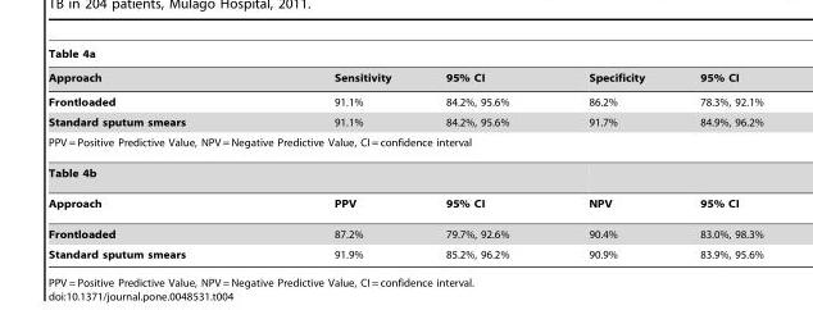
<table><thead><tr><td colspan="5">Table 4a</td></tr><tr><td>Approach</td><td>Sensitivity</td><td>95% CI</td><td>Specificity</td><td>95% CI</td></tr></thead><tbody><tr><td>Frontloaded</td><td>91.1%</td><td>84.2%, 95.6%</td><td>86.2%</td><td>78.3%, 92.1%</td></tr><tr><td>Standard sputum smears</td><td>91.1%</td><td>84.2%, 95.6%</td><td>91.7%</td><td>84.9%, 96.2%</td></tr><tr><td colspan="5">PPV = Positive Predictive Value, NPV = Negative Predictive Value, CI = confidence interval</td></tr><tr><td colspan="5">Table 4b</td></tr><tr><td>Approach</td><td>PPV</td><td>95% CI</td><td>NPV</td><td>95% CI</td></tr><tr><td>Frontloaded</td><td>87.2%</td><td>79.7%, 92.6%</td><td>90.4%</td><td>83.0%, 98.3%</td></tr><tr><td>Standard sputum smears</td><td>91.9%</td><td>85.2%, 96.2%</td><td>90.9%</td><td>83.9%, 95.6%</td></tr></tbody></table>